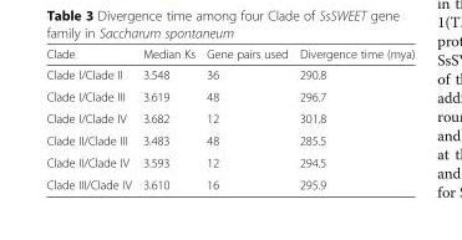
<table><thead><tr><td>Clade</td><td>Median Ks</td><td>Gene pairs used</td><td>Divergence time (mya)</td></tr></thead><tbody><tr><td>Clade I/Clade II</td><td>3.548</td><td>36</td><td>290.8</td></tr><tr><td>Clade I/Clade III</td><td>3.619</td><td>48</td><td>296.7</td></tr><tr><td>Clade I/Clade IV</td><td>3.682</td><td>12</td><td>301.8</td></tr><tr><td>Clade II/Clade III</td><td>3.483</td><td>48</td><td>285.5</td></tr><tr><td>Clade II/Clade IV</td><td>3.593</td><td>12</td><td>294.5</td></tr><tr><td>Clade III/Clade IV</td><td>3.610</td><td>16</td><td>295.9</td></tr></tbody></table>